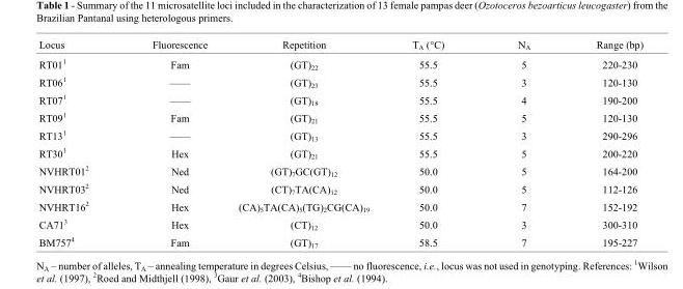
<table><thead><tr><td>Locus</td><td>Fluorescence</td><td>Repetition</td><td>T<sub>A</sub> (°C)</td><td>N<sub>A</sub></td><td>Range (bp)</td></tr></thead><tbody><tr><td>RT01<sup>1</sup></td><td>Fam</td><td>(GT)<sub>22</sub></td><td>55.5</td><td>5</td><td>220-230</td></tr><tr><td>RT06<sup>1</sup></td><td>——</td><td>(GT)<sub>23</sub></td><td>55.5</td><td>3</td><td>120-130</td></tr><tr><td>RT07<sup>1</sup></td><td>——</td><td>(GT)<sub>18</sub></td><td>55.5</td><td>4</td><td>190-200</td></tr><tr><td>RT09<sup>1</sup></td><td>Fam</td><td>(GT)<sub>21</sub></td><td>55.5</td><td>5</td><td>120-130</td></tr><tr><td>RT13<sup>1</sup></td><td>——</td><td>(GT)<sub>13</sub></td><td>55.5</td><td>3</td><td>290-296</td></tr><tr><td>RT30<sup>1</sup></td><td>Hex</td><td>(GT)<sub>21</sub></td><td>55.5</td><td>5</td><td>200-220</td></tr><tr><td>NVHRT01<sup>2</sup></td><td>Ned</td><td>(GT)<sub>7</sub>GC(GT)<sub>12</sub></td><td>50.0</td><td>5</td><td>164-200</td></tr><tr><td>NVHRT03<sup>2</sup></td><td>Ned</td><td>(CT)<sub>7</sub>TA(CA)<sub>12</sub></td><td>50.0</td><td>5</td><td>112-126</td></tr><tr><td>NVHRT16<sup>2</sup></td><td>Hex</td><td>(CA)<sub>5</sub>TA(CA)<sub>5</sub>(TG)<sub>2</sub>CG(CA)<sub>19</sub></td><td>50.0</td><td>7</td><td>152-192</td></tr><tr><td>CA71<sup>3</sup></td><td>Hex</td><td>(CT)<sub>12</sub></td><td>50.0</td><td>3</td><td>300-310</td></tr><tr><td>BM757<sup>4</sup></td><td>Fam</td><td>(GT)<sub>17</sub></td><td>58.5</td><td>7</td><td>195-227</td></tr></tbody></table>